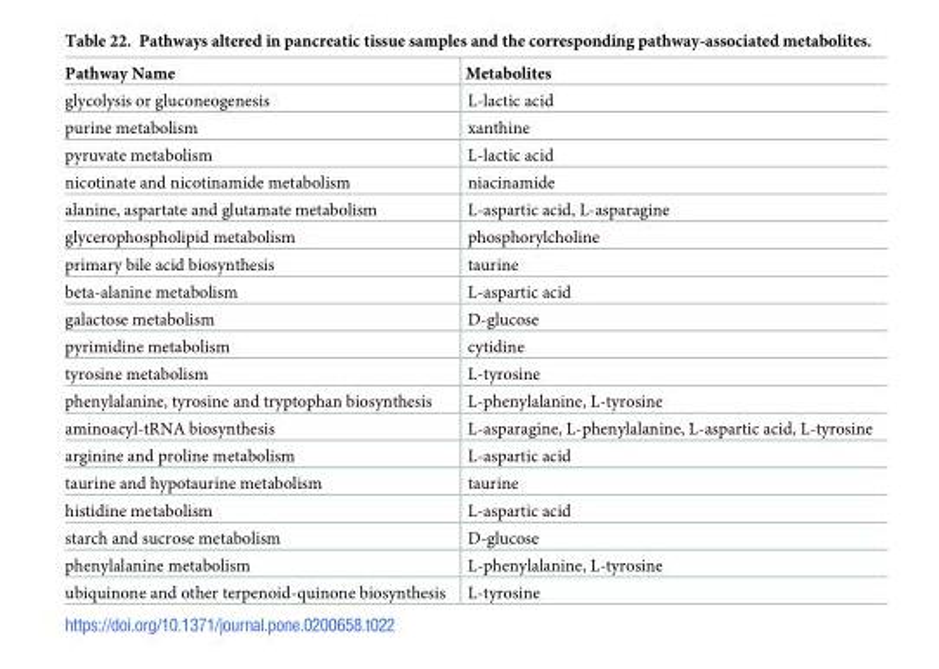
<table><thead><tr><td>Pathway Name</td><td>Metabolites</td></tr></thead><tbody><tr><td>glycolysis or gluconeogenesis</td><td>L-lactic acid</td></tr><tr><td>purine metabolism</td><td>xanthine</td></tr><tr><td>pyruvate metabolism</td><td>L-lactic acid</td></tr><tr><td>nicotinate and nicotinamide metabolism</td><td>niacinamide</td></tr><tr><td>alanine, aspartate and glutamate metabolism</td><td>L-aspartic acid, L-asparagine</td></tr><tr><td>glycerophospholipid metabolism</td><td>phosphorylcholine</td></tr><tr><td>primary bile acid biosynthesis</td><td>taurine</td></tr><tr><td>beta-alanine metabolism</td><td>L-aspartic acid</td></tr><tr><td>galactose metabolism</td><td>D-glucose</td></tr><tr><td>pyrimidine metabolism</td><td>cytidine</td></tr><tr><td>tyrosine metabolism</td><td>L-tyrosine</td></tr><tr><td>phenylalanine, tyrosine and tryptophan biosynthesis</td><td>L-phenylalanine, L-tyrosine</td></tr><tr><td>aminoacyl-tRNA biosynthesis</td><td>L-asparagine, L-phenylalanine, L-aspartic acid, L-tyrosine</td></tr><tr><td>arginine and proline metabolism</td><td>L-aspartic acid</td></tr><tr><td>taurine and hypotaurine metabolism</td><td>taurine</td></tr><tr><td>histidine metabolism</td><td>L-aspartic acid</td></tr><tr><td>starch and sucrose metabolism</td><td>D-glucose</td></tr><tr><td>phenylalanine metabolism</td><td>L-phenylalanine, L-tyrosine</td></tr><tr><td>ubiquinone and other terpenoid-quinone biosynthesis</td><td>L-tyrosine</td></tr></tbody></table>